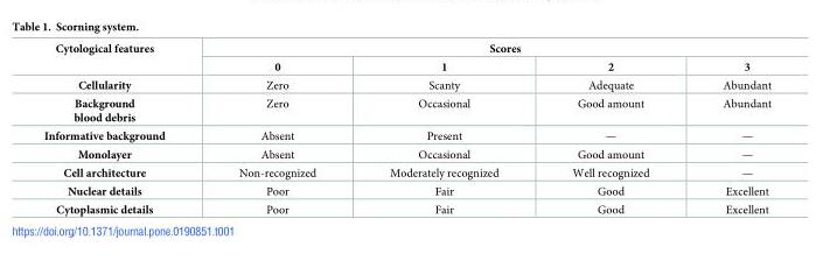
<table><thead><tr><td rowspan="2">Cytological features</td><td colspan="4">Scores</td></tr><tr><td>0</td><td>1</td><td>2</td><td>3</td></tr></thead><tbody><tr><td>Cellularity</td><td>Zero</td><td>Scanty</td><td>Adequate</td><td>Abundant</td></tr><tr><td>Background blood debris</td><td>Zero</td><td>Occasional</td><td>Good amount</td><td>Abundant</td></tr><tr><td>Informative background</td><td>Absent</td><td>Present</td><td>—</td><td>—</td></tr><tr><td>Monolayer</td><td>Absent</td><td>Occasional</td><td>Good amount</td><td>—</td></tr><tr><td>Cell architecture</td><td>Non-recognized</td><td>Moderately recognized</td><td>Well recognized</td><td>—</td></tr><tr><td>Nuclear details</td><td>Poor</td><td>Fair</td><td>Good</td><td>Excellent</td></tr><tr><td>Cytoplasmic details</td><td>Poor</td><td>Fair</td><td>Good</td><td>Excellent</td></tr></tbody></table>